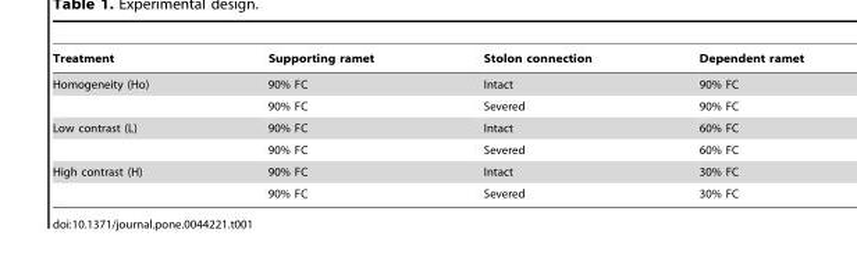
<table><thead><tr><td>Treatment</td><td>Supporting ramet</td><td>Stolon connection</td><td>Dependent ramet</td></tr></thead><tbody><tr><td rowspan="2">Homogeneity (Ho)</td><td>90% FC</td><td>Intact</td><td>90% FC</td></tr><tr><td>90% FC</td><td>Severed</td><td>90% FC</td></tr><tr><td rowspan="2">Low contrast (L)</td><td>90% FC</td><td>Intact</td><td>60% FC</td></tr><tr><td>90% FC</td><td>Severed</td><td>60% FC</td></tr><tr><td rowspan="2">High contrast (H)</td><td>90% FC</td><td>Intact</td><td>30% FC</td></tr><tr><td>90% FC</td><td>Severed</td><td>30% FC</td></tr></tbody></table>